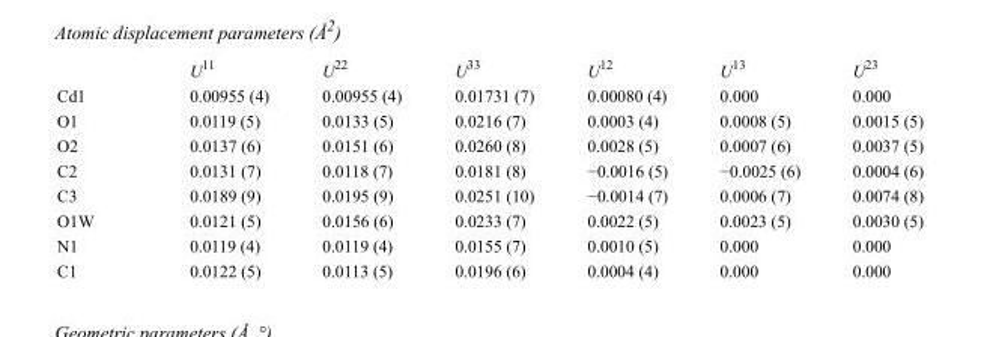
<table><thead><tr><td></td><td>U<sup>11</sup></td><td>U<sup>22</sup></td><td>U<sup>33</sup></td><td>U<sup>12</sup></td><td>U<sup>13</sup></td><td>U<sup>23</sup></td></tr></thead><tbody><tr><td>Cd1</td><td>0.00955 (4)</td><td>0.00955 (4)</td><td>0.01731 (7)</td><td>0.00080 (4)</td><td>0.000</td><td>0.000</td></tr><tr><td>O1</td><td>0.0119 (5)</td><td>0.0133 (5)</td><td>0.0216 (7)</td><td>0.0003 (4)</td><td>0.0008 (5)</td><td>0.0015 (5)</td></tr><tr><td>O2</td><td>0.0137 (6)</td><td>0.0151 (6)</td><td>0.0260 (8)</td><td>0.0028 (5)</td><td>0.0007 (6)</td><td>0.0037 (5)</td></tr><tr><td>C2</td><td>0.0131 (7)</td><td>0.0118 (7)</td><td>0.0181 (8)</td><td>−0.0016 (5)</td><td>−0.0025 (6)</td><td>0.0004 (6)</td></tr><tr><td>C3</td><td>0.0189 (9)</td><td>0.0195 (9)</td><td>0.0251 (10)</td><td>−0.0014 (7)</td><td>0.0006 (7)</td><td>0.0074 (8)</td></tr><tr><td>O1W</td><td>0.0121 (5)</td><td>0.0156 (6)</td><td>0.0233 (7)</td><td>0.0022 (5)</td><td>0.0023 (5)</td><td>0.0030 (5)</td></tr><tr><td>N1</td><td>0.0119 (4)</td><td>0.0119 (4)</td><td>0.0155 (7)</td><td>0.0010 (5)</td><td>0.000</td><td>0.000</td></tr><tr><td>C1</td><td>0.0122 (5)</td><td>0.0113 (5)</td><td>0.0196 (6)</td><td>0.0004 (4)</td><td>0.000</td><td>0.000</td></tr></tbody></table>